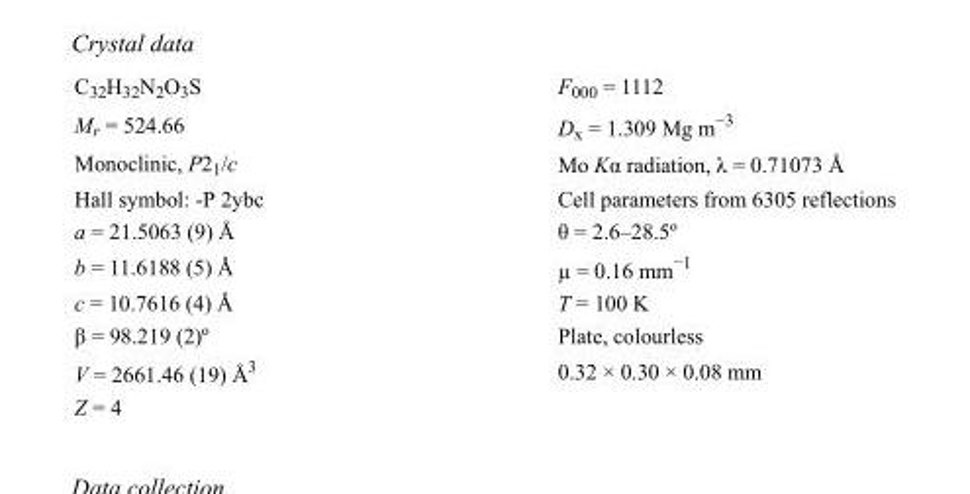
<table><tbody><tr><td>C<sub>32</sub>H<sub>32</sub>N<sub>2</sub>O<sub>3</sub>S</td><td>F000 = 1112</td></tr><tr><td>M<sub>r</sub> = 524.66</td><td>D<sub>x</sub> = 1.309 Mg m<sup>−3</sup></td></tr><tr><td>Monoclinic, P2<sub>1</sub>/c</td><td>Mo Kα radiation, λ = 0.71073 Å</td></tr><tr><td>Hall symbol: -P 2ybc</td><td>Cell parameters from 6305 reflections</td></tr><tr><td>a = 21.5063 (9) Å</td><td>θ = 2.6–28.5º</td></tr><tr><td>b = 11.6188 (5) Å</td><td>µ = 0.16 mm<sup>−1</sup></td></tr><tr><td>c = 10.7616 (4) Å</td><td>T = 100 K</td></tr><tr><td>β = 98.219 (2)º</td><td>Plate, colourless</td></tr><tr><td>V = 2661.46 (19) Å<sup>3</sup></td><td>0.32 × 0.30 × 0.08 mm</td></tr><tr><td>Z = 4</td><td></td></tr></tbody></table>